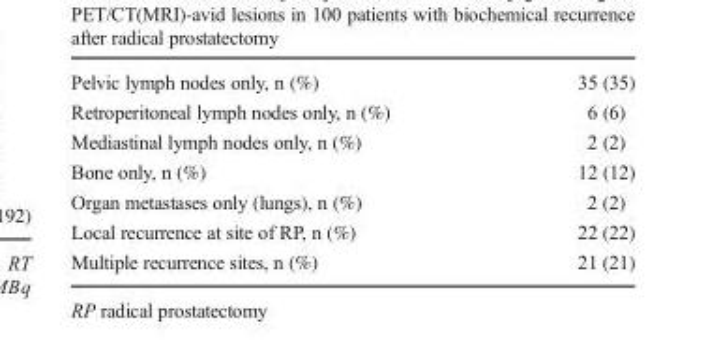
<table><tbody><tr><td>Pelvic lymph nodes only, n (%)</td><td>35 (35)</td></tr><tr><td>Retroperitoneal lymph nodes only, n (%)</td><td>6 (6)</td></tr><tr><td>Mediastinal lymph nodes only, n (%)</td><td>2 (2)</td></tr><tr><td>Bone only, n (%)</td><td>12 (12)</td></tr><tr><td>Organ metastases only (lungs), n (%)</td><td>2 (2)</td></tr><tr><td>Local recurrence at site of RP, n (%)</td><td>22 (22)</td></tr><tr><td>Multiple recurrence sites, n (%)</td><td>21 (21)</td></tr></tbody></table>